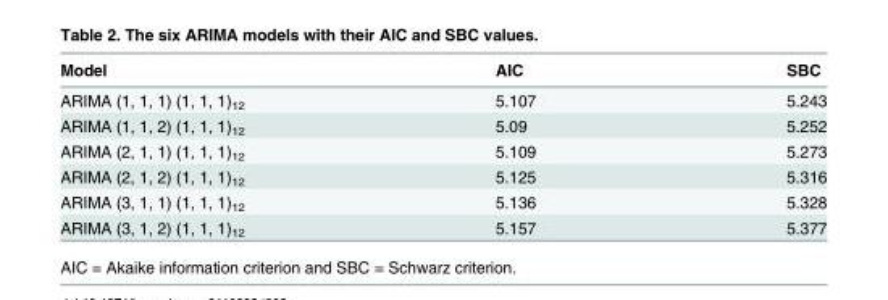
<table><thead><tr><td>Model</td><td>AIC</td><td>SBC</td></tr></thead><tbody><tr><td>ARIMA (1, 1, 1) (1, 1, 1)<sub>12</sub></td><td>5.107</td><td>5.243</td></tr><tr><td>ARIMA (1, 1, 2) (1, 1, 1)<sub>12</sub></td><td>5.09</td><td>5.252</td></tr><tr><td>ARIMA (2, 1, 1) (1, 1, 1)<sub>12</sub></td><td>5.109</td><td>5.273</td></tr><tr><td>ARIMA (2, 1, 2) (1, 1, 1)<sub>12</sub></td><td>5.125</td><td>5.316</td></tr><tr><td>ARIMA (3, 1, 1) (1, 1, 1)<sub>12</sub></td><td>5.136</td><td>5.328</td></tr><tr><td>ARIMA (3, 1, 2) (1, 1, 1)<sub>12</sub></td><td>5.157</td><td>5.377</td></tr></tbody></table>